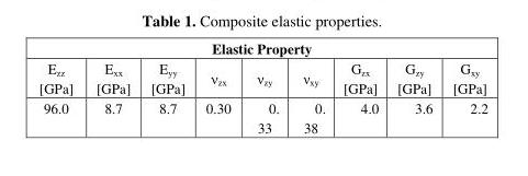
<table><thead><tr><td colspan="9">Elastic Property</td></tr><tr><td>E<sub>zz</sub> [GPa]</td><td>E<sub>xx</sub> [GPa]</td><td>E<sub>yy</sub> [GPa]</td><td>ν<sub>zx</sub></td><td>ν<sub>zy</sub></td><td>ν<sub>xy</sub></td><td>G<sub>zx</sub> [GPa]</td><td>G<sub>zy</sub> [GPa]</td><td>G<sub>xy</sub> [GPa]</td></tr></thead><tbody><tr><td>96.0</td><td>8.7</td><td>8.7</td><td>0.30</td><td>0. 33</td><td>0. 38</td><td>4.0</td><td>3.6</td><td>2.2</td></tr></tbody></table>